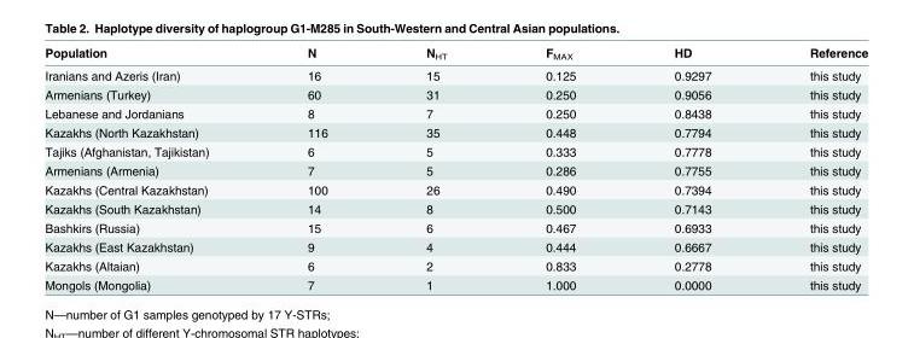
<table><thead><tr><td>Population</td><td>N</td><td>N<sub>HT</sub></td><td>F<sub>MAX</sub></td><td>HD</td><td>Reference</td></tr></thead><tbody><tr><td>Iranians and Azeris (Iran)</td><td>16</td><td>15</td><td>0.125</td><td>0.9297</td><td>this study</td></tr><tr><td>Armenians (Turkey)</td><td>60</td><td>31</td><td>0.250</td><td>0.9056</td><td>this study</td></tr><tr><td>Lebanese and Jordanians</td><td>8</td><td>7</td><td>0.250</td><td>0.8438</td><td>this study</td></tr><tr><td>Kazakhs (North Kazakhstan)</td><td>116</td><td>35</td><td>0.448</td><td>0.7794</td><td>this study</td></tr><tr><td>Tajiks (Afghanistan, Tajikistan)</td><td>6</td><td>5</td><td>0.333</td><td>0.7778</td><td>this study</td></tr><tr><td>Armenians (Armenia)</td><td>7</td><td>5</td><td>0.286</td><td>0.7755</td><td>this study</td></tr><tr><td>Kazakhs (Central Kazakhstan)</td><td>100</td><td>26</td><td>0.490</td><td>0.7394</td><td>this study</td></tr><tr><td>Kazakhs (South Kazakhstan)</td><td>14</td><td>8</td><td>0.500</td><td>0.7143</td><td>this study</td></tr><tr><td>Bashkirs (Russia)</td><td>15</td><td>6</td><td>0.467</td><td>0.6933</td><td>this study</td></tr><tr><td>Kazakhs (East Kazakhstan)</td><td>9</td><td>4</td><td>0.444</td><td>0.6667</td><td>this study</td></tr><tr><td>Kazakhs (Altaian)</td><td>6</td><td>2</td><td>0.833</td><td>0.2778</td><td>this study</td></tr><tr><td>Mongols (Mongolia)</td><td>7</td><td>1</td><td>1.000</td><td>0.0000</td><td>this study</td></tr></tbody></table>